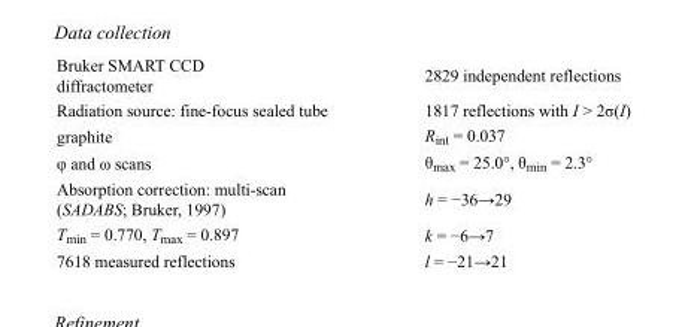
<table><tbody><tr><td>Bruker SMART CCD diffractometer</td><td>2829 independent reflections</td></tr><tr><td>Radiation source: fine-focus sealed tube</td><td>1817 reflections with I &gt; 2σ(I)</td></tr><tr><td>graphite</td><td>R<sub>int</sub> = 0.037</td></tr><tr><td>φ and ω scans</td><td>θ<sub>max</sub> = 25.0°, θ<sub>min</sub> = 2.3°</td></tr><tr><td>Absorption correction: multi-scan (SADABS; Bruker, 1997)</td><td>h = −36→29</td></tr><tr><td>T<sub>min</sub> = 0.770, T<sub>max</sub> = 0.897</td><td>k = −6→7</td></tr><tr><td>7618 measured reflections</td><td>l = −21→21</td></tr></tbody></table>